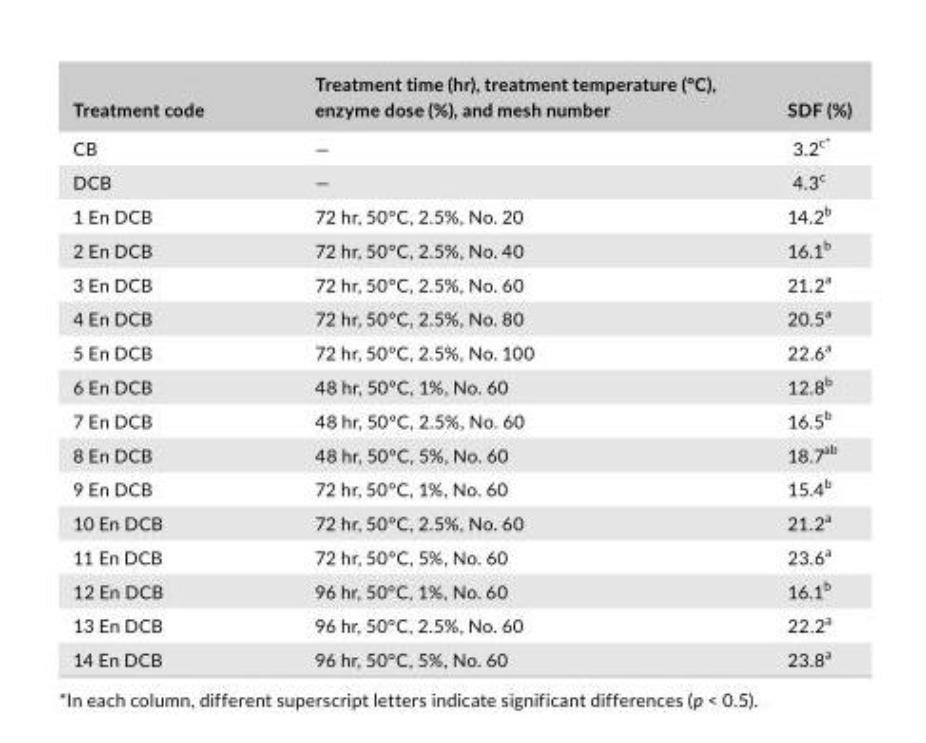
<table><thead><tr><td>Treatment code</td><td>Treatment time (hr), treatment temperature (°C), enzyme dose (%), and mesh number</td><td>SDF (%)</td></tr></thead><tbody><tr><td>CB</td><td>—</td><td>3.2<sup>c</sup>*</td></tr><tr><td>DCB</td><td>—</td><td>4.3<sup>c</sup></td></tr><tr><td>1 En DCB</td><td>72 hr, 50°C, 2.5%, No. 20</td><td>14.2<sup>b</sup></td></tr><tr><td>2 En DCB</td><td>72 hr, 50°C, 2.5%, No. 40</td><td>16.1<sup>b</sup></td></tr><tr><td>3 En DCB</td><td>72 hr, 50°C, 2.5%, No. 60</td><td>21.2<sup>a</sup></td></tr><tr><td>4 En DCB</td><td>72 hr, 50°C, 2.5%, No. 80</td><td>20.5<sup>a</sup></td></tr><tr><td>5 En DCB</td><td>72 hr, 50°C, 2.5%, No. 100</td><td>22.6<sup>a</sup></td></tr><tr><td>6 En DCB</td><td>48 hr, 50°C, 1%, No. 60</td><td>12.8<sup>b</sup></td></tr><tr><td>7 En DCB</td><td>48 hr, 50°C, 2.5%, No. 60</td><td>16.5<sup>b</sup></td></tr><tr><td>8 En DCB</td><td>48 hr, 50°C, 5%, No. 60</td><td>18.7<sup>ab</sup></td></tr><tr><td>9 En DCB</td><td>72 hr, 50°C, 1%, No. 60</td><td>15.4<sup>b</sup></td></tr><tr><td>10 En DCB</td><td>72 hr, 50°C, 2.5%, No. 60</td><td>21.2<sup>a</sup></td></tr><tr><td>11 En DCB</td><td>72 hr, 50°C, 5%, No. 60</td><td>23.6<sup>a</sup></td></tr><tr><td>12 En DCB</td><td>96 hr, 50°C, 1%, No. 60</td><td>16.1<sup>b</sup></td></tr><tr><td>13 En DCB</td><td>96 hr, 50°C, 2.5%, No. 60</td><td>22.2<sup>a</sup></td></tr><tr><td>14 En DCB</td><td>96 hr, 50°C, 5%, No. 60</td><td>23.8<sup>a</sup></td></tr></tbody></table>